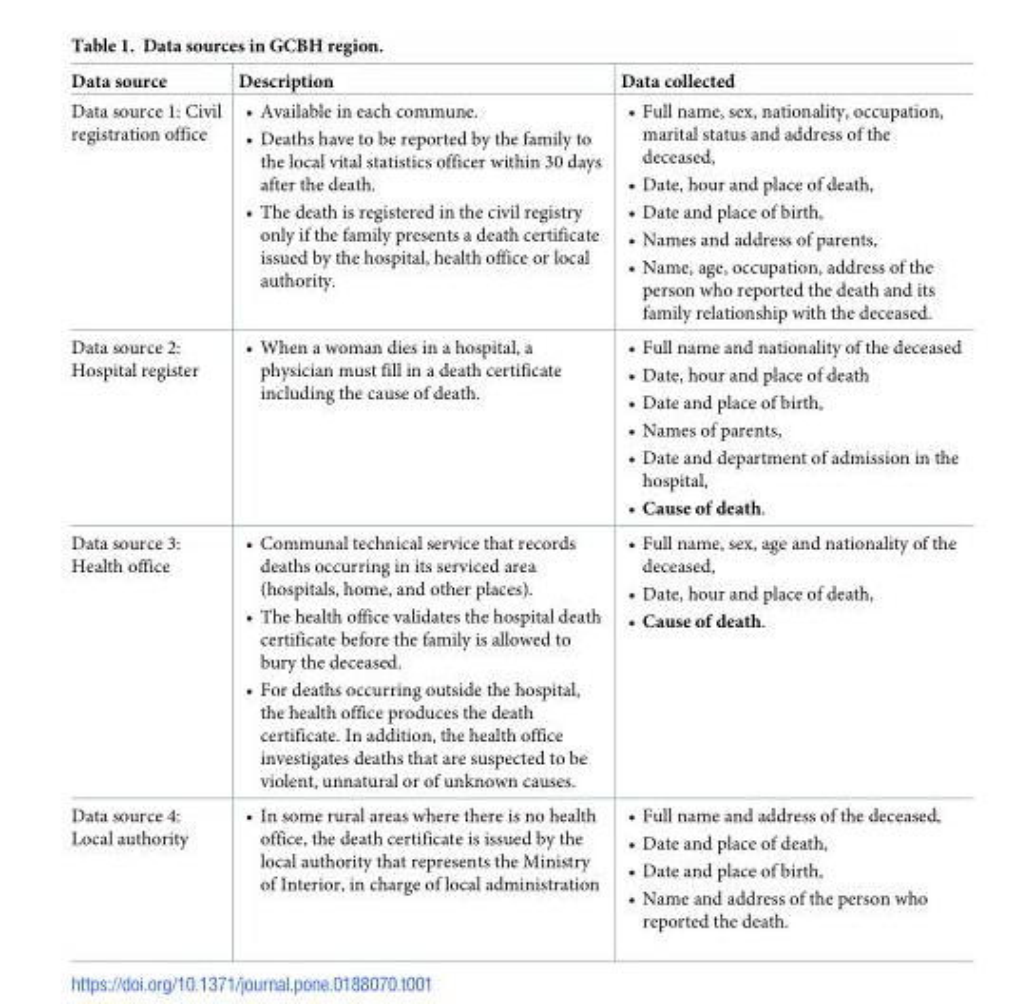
<table><thead><tr><td>Data source</td><td>Description</td><td>Data collected</td></tr></thead><tbody><tr><td>Data source 1: Civil registration office</td><td>• Available in each commune. • Deaths have to be reported by the family to the local vital statistics officer within 30 days after the death. • The death is registered in the civil registry only if the family presents a death certificate issued by the hospital, health office or local authority.</td><td>• Full name, sex, nationality, occupation, marital status and address of the deceased, • Date, hour and place of death, • Date and place of birth, • Names and address of parents, • Name, age, occupation, address of the person who reported the death and its family relationship with the deceased.</td></tr><tr><td>Data source 2: Hospital register</td><td>• When a woman dies in a hospital, a physician must fill in a death certificate including the cause of death.</td><td>• Full name and nationality of the deceased • Date, hour and place of death • Date and place of birth, • Names of parents, • Date and department of admission in the hospital, • Cause of death.</td></tr><tr><td>Data source 3: Health office</td><td>• Communal technical service that records deaths occurring in its serviced area (hospitals, home, and other places). • The health office validates the hospital death certificate before the family is allowed to bury the deceased. • For deaths occurring outside the hospital, the health office produces the death certificate. In addition, the health office investigates deaths that are suspected to be violent, unnatural or of unknown causes.</td><td>• Full name, sex, age and nationality of the deceased, • Date, hour and place of death, • Cause of death.</td></tr><tr><td>Data source 4: Local authority</td><td>• In some rural areas where there is no health office, the death certificate is issued by the local authority that represents the Ministry of Interior, in charge of local administration</td><td>• Full name and address of the deceased, • Date and place of death, • Date and place of birth, • Name and address of the person who reported the death.</td></tr></tbody></table>